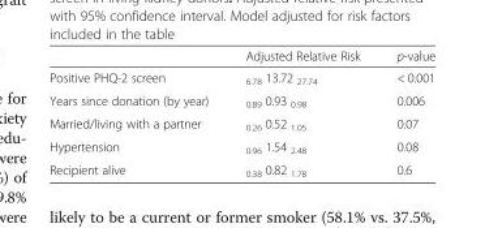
<table><thead><tr><td></td><td>Adjusted Relative Risk</td><td>p-value</td></tr></thead><tbody><tr><td>Positive PHQ-2 screen</td><td><sub>6.78</sub> 13.72 <sub>27.74</sub></td><td>&lt; 0.001</td></tr><tr><td>Years since donation (by year)</td><td><sub>0.89</sub> 0.93 <sub>0.98</sub></td><td>0.006</td></tr><tr><td>Married/living with a partner</td><td><sub>0.26</sub> 0.52 <sub>1.05</sub></td><td>0.07</td></tr><tr><td>Hypertension</td><td><sub>0.96</sub> 1.54 <sub>2.48</sub></td><td>0.08</td></tr><tr><td>Recipient alive</td><td><sub>0.38</sub> 0.82 <sub>1.78</sub></td><td>0.6</td></tr></tbody></table>